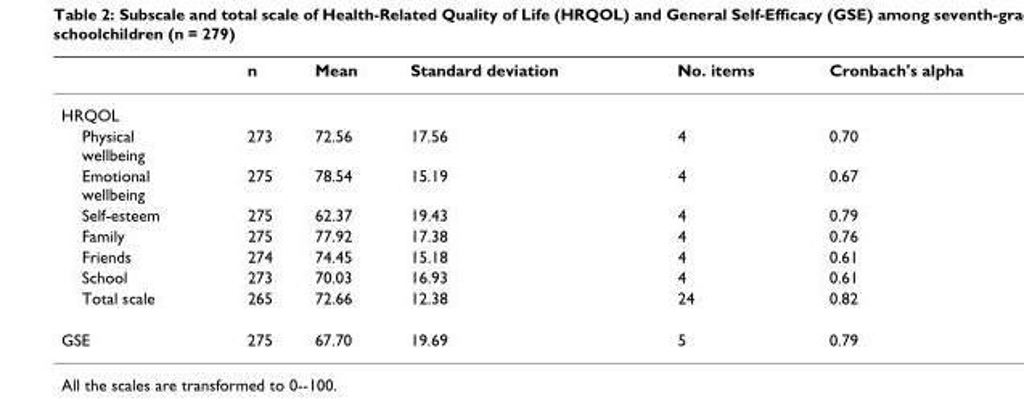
<table><thead><tr><td></td><td>n</td><td>Mean</td><td>Standard deviation</td><td>No. items</td><td>Cronbach&#x27;s alpha</td></tr></thead><tbody><tr><td colspan="6">HRQOL</td></tr><tr><td>Physical wellbeing</td><td>273</td><td>72.56</td><td>17.56</td><td>4</td><td>0.70</td></tr><tr><td>Emotional wellbeing</td><td>275</td><td>78.54</td><td>15.19</td><td>4</td><td>0.67</td></tr><tr><td>Self-esteem</td><td>275</td><td>62.37</td><td>19.43</td><td>4</td><td>0.79</td></tr><tr><td>Family</td><td>275</td><td>77.92</td><td>17.38</td><td>4</td><td>0.76</td></tr><tr><td>Friends</td><td>274</td><td>74.45</td><td>15.18</td><td>4</td><td>0.61</td></tr><tr><td>School</td><td>273</td><td>70.03</td><td>16.93</td><td>4</td><td>0.61</td></tr><tr><td>Total scale</td><td>265</td><td>72.66</td><td>12.38</td><td>24</td><td>0.82</td></tr><tr><td>GSE</td><td>275</td><td>67.70</td><td>19.69</td><td>5</td><td>0.79</td></tr></tbody></table>